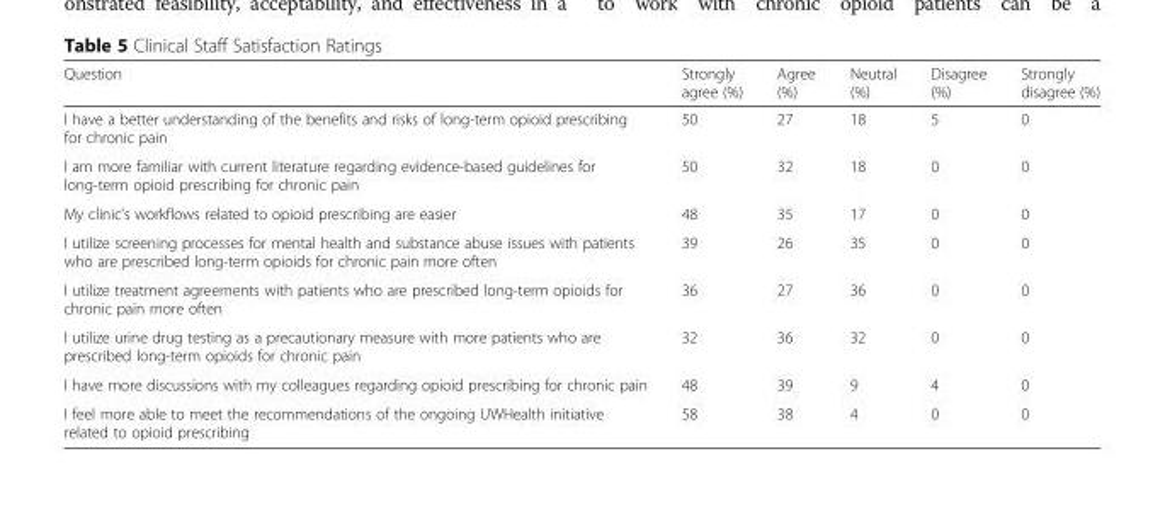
<table><thead><tr><td>Question</td><td>Strongly agree (%)</td><td>Agree (%)</td><td>Neutral (%)</td><td>Disagree (%)</td><td>Strongly disagree (%)</td></tr></thead><tbody><tr><td>I have a better understanding of the benefits and risks of long-term opioid prescribing for chronic pain</td><td>50</td><td>27</td><td>18</td><td>5</td><td>0</td></tr><tr><td>I am more familiar with current literature regarding evidence-based guidelines for long-term opioid prescribing for chronic pain</td><td>50</td><td>32</td><td>18</td><td>0</td><td>0</td></tr><tr><td>My clinic’s workflows related to opioid prescribing are easier</td><td>48</td><td>35</td><td>17</td><td>0</td><td>0</td></tr><tr><td>I utilize screening processes for mental health and substance abuse issues with patients who are prescribed long-term opioids for chronic pain more often</td><td>39</td><td>26</td><td>35</td><td>0</td><td>0</td></tr><tr><td>I utilize treatment agreements with patients who are prescribed long-term opioids for chronic pain more often</td><td>36</td><td>27</td><td>36</td><td>0</td><td>0</td></tr><tr><td>I utilize urine drug testing as a precautionary measure with more patients who are prescribed long-term opioids for chronic pain</td><td>32</td><td>36</td><td>32</td><td>0</td><td>0</td></tr><tr><td>I have more discussions with my colleagues regarding opioid prescribing for chronic pain</td><td>48</td><td>39</td><td>9</td><td>4</td><td>0</td></tr><tr><td>I feel more able to meet the recommendations of the ongoing UWHealth initiative related to opioid prescribing</td><td>58</td><td>38</td><td>4</td><td>0</td><td>0</td></tr></tbody></table>